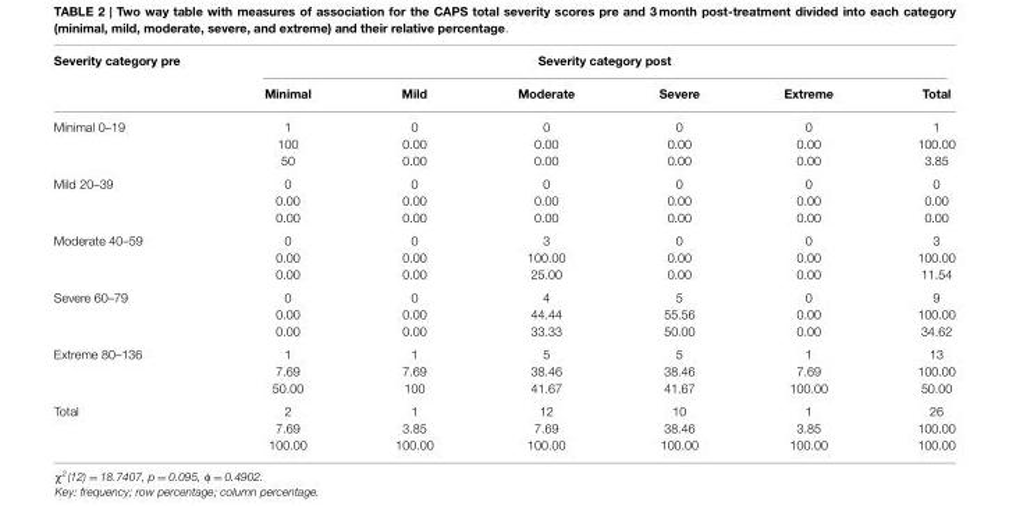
<table><thead><tr><td rowspan="2">Severity category pre</td><td colspan="6">Severity category post</td></tr><tr><td>Minimal</td><td>Mild</td><td>Moderate</td><td>Severe</td><td>Extreme</td><td>Total</td></tr></thead><tbody><tr><td rowspan="3">Minimal 0–19</td><td>1</td><td>0</td><td>0</td><td>0</td><td>0</td><td>1</td></tr><tr><td>100</td><td>0.00</td><td>0.00</td><td>0.00</td><td>0.00</td><td>100.00</td></tr><tr><td>50</td><td>0.00</td><td>0.00</td><td>0.00</td><td>0.00</td><td>3.85</td></tr><tr><td rowspan="3">Mild 20–39</td><td>0</td><td>0</td><td>0</td><td>0</td><td>0</td><td>0</td></tr><tr><td>0.00</td><td>0.00</td><td>0.00</td><td>0.00</td><td>0.00</td><td>0.00</td></tr><tr><td>0.00</td><td>0.00</td><td>0.00</td><td>0.00</td><td>0.00</td><td>0.00</td></tr><tr><td rowspan="3">Moderate 40–59</td><td>0</td><td>0</td><td>3</td><td>0</td><td>0</td><td>3</td></tr><tr><td>0.00</td><td>0.00</td><td>100.00</td><td>0.00</td><td>0.00</td><td>100.00</td></tr><tr><td>0.00</td><td>0.00</td><td>25.00</td><td>0.00</td><td>0.00</td><td>11.54</td></tr><tr><td rowspan="3">Severe 60–79</td><td>0</td><td>0</td><td>4</td><td>5</td><td>0</td><td>9</td></tr><tr><td>0.00</td><td>0.00</td><td>44.44</td><td>55.56</td><td>0.00</td><td>100.00</td></tr><tr><td>0.00</td><td>0.00</td><td>33.33</td><td>50.00</td><td>0.00</td><td>34.62</td></tr><tr><td rowspan="3">Extreme 80–136</td><td>1</td><td>1</td><td>5</td><td>5</td><td>1</td><td>13</td></tr><tr><td>7.69</td><td>7.69</td><td>38.46</td><td>38.46</td><td>7.69</td><td>100.00</td></tr><tr><td>50.00</td><td>100</td><td>41.67</td><td>41.67</td><td>100.00</td><td>50.00</td></tr><tr><td rowspan="3">Total</td><td>2</td><td>1</td><td>12</td><td>10</td><td>1</td><td>26</td></tr><tr><td>7.69</td><td>3.85</td><td>7.69</td><td>38.46</td><td>3.85</td><td>100.00</td></tr><tr><td>100.00</td><td>100.00</td><td>100.00</td><td>100.00</td><td>100.00</td><td>100.00</td></tr></tbody></table>